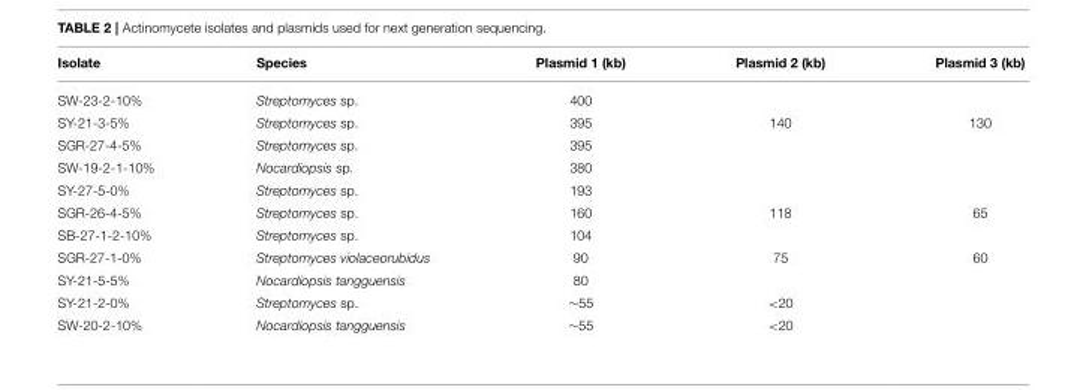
<table><thead><tr><td>Isolate</td><td>Species</td><td>Plasmid 1 (kb)</td><td>Plasmid 2 (kb)</td><td>Plasmid 3 (kb)</td></tr></thead><tbody><tr><td>SW-23-2-10%</td><td>Streptomyces sp.</td><td>400</td><td></td><td></td></tr><tr><td>SY-21-3-5%</td><td>Streptomyces sp.</td><td>395</td><td>140</td><td>130</td></tr><tr><td>SGR-27-4-5%</td><td>Streptomyces sp.</td><td>395</td><td></td><td></td></tr><tr><td>SW-19-2-1-10%</td><td>Nocardiopsis sp.</td><td>380</td><td></td><td></td></tr><tr><td>SY-27-5-0%</td><td>Streptomyces sp.</td><td>193</td><td></td><td></td></tr><tr><td>SGR-26-4-5%</td><td>Streptomyces sp.</td><td>160</td><td>118</td><td>65</td></tr><tr><td>SB-27-1-2-10%</td><td>Streptomyces sp.</td><td>104</td><td></td><td></td></tr><tr><td>SGR-27-1-0%</td><td>Streptomyces violaceorubidus</td><td>90</td><td>75</td><td>60</td></tr><tr><td>SY-21-5-5%</td><td>Nocardiopsis tangguensis</td><td>80</td><td></td><td></td></tr><tr><td>SY-21-2-0%</td><td>Streptomyces sp.</td><td>∼55</td><td>&lt;20</td><td></td></tr><tr><td>SW-20-2-10%</td><td>Nocardiopsis tangguensis</td><td>∼55</td><td>&lt;20</td><td></td></tr></tbody></table>